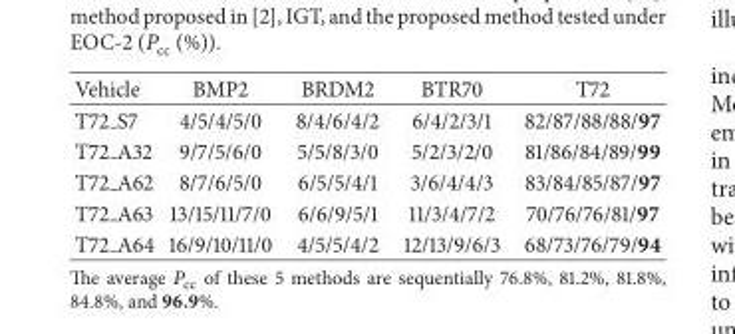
<table><thead><tr><td>Vehicle</td><td>BMP2</td><td>BRDM2</td><td>BTR70</td><td>T72</td></tr></thead><tbody><tr><td>T72 S7</td><td>4/5/4/5/0</td><td>8/4/6/4/2</td><td>6/4/2/3/1</td><td>82/87/88/88/97</td></tr><tr><td>T72 A32</td><td>9/7/5/6/0</td><td>5/5/8/3/0</td><td>5/2/3/2/0</td><td>81/86/84/89/99</td></tr><tr><td>T72 A62</td><td>8/7/6/5/0</td><td>6/5/5/4/1</td><td>3/6/4/4/3</td><td>83/84/85/87/97</td></tr><tr><td>T72 A63</td><td>13/15/11/7/0</td><td>6/6/9/5/1</td><td>11/3/4/7/2</td><td>70/76/76/81/97</td></tr><tr><td>T72 A64</td><td>16/9/10/11/0</td><td>4/5/5/4/2</td><td>12/13/9/6/3</td><td>68/73/76/79/94</td></tr></tbody></table>